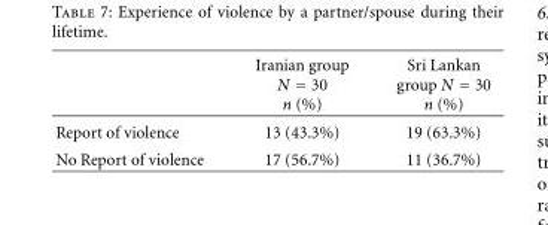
<table><thead><tr><td></td><td>Iranian group N = 30 n (%)</td><td>Sri Lankan group N = 30 n (%)</td></tr></thead><tbody><tr><td>Report of violence</td><td>13 (43.3%)</td><td>19 (63.3%)</td></tr><tr><td>No Report of violence</td><td>17 (56.7%)</td><td>11 (36.7%)</td></tr></tbody></table>